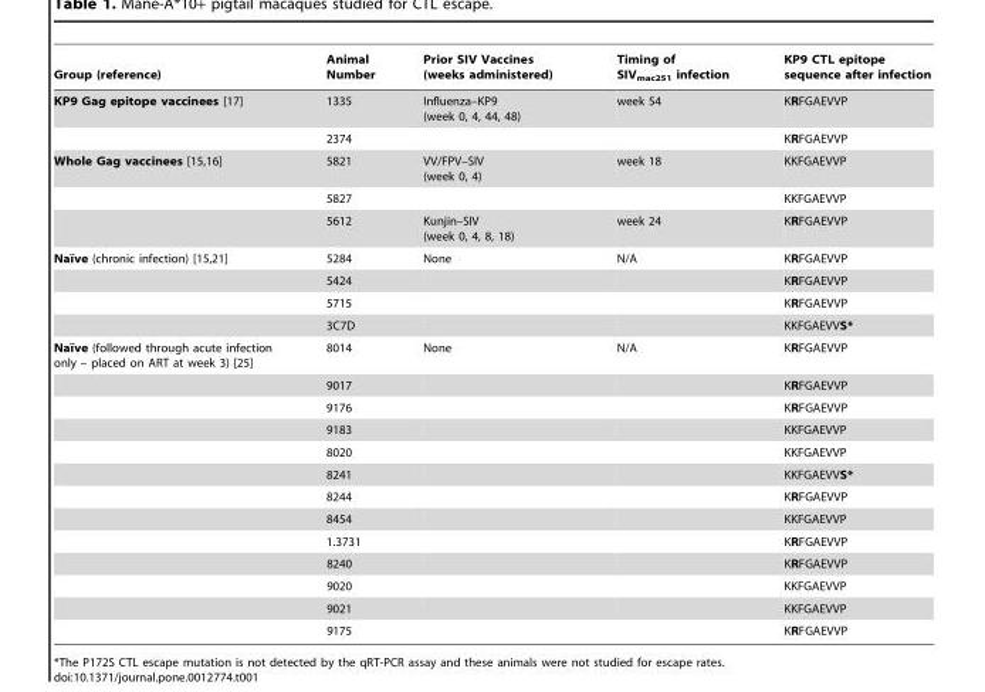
<table><thead><tr><td>Group (reference)</td><td>Animal Number</td><td>Prior SIV Vaccines (weeks administered)</td><td>Timing of SIV<sub>mac251</sub> infection</td><td>KP9 CTL epitope sequence after infection</td></tr></thead><tbody><tr><td rowspan="2">KP9 Gag epitope vaccinees [17]</td><td>1335</td><td>Influenza–KP9 (week 0, 4, 44, 48)</td><td>week 54</td><td>KRFGAEVVP</td></tr><tr><td>2374</td><td></td><td></td><td>KRFGAEVVP</td></tr><tr><td rowspan="3">Whole Gag vaccinees [15,16]</td><td>5821</td><td>VV/FPV–SIV (week 0, 4)</td><td>week 18</td><td>KKFGAEVVP</td></tr><tr><td>5827</td><td></td><td></td><td>KKFGAEVVP</td></tr><tr><td>5612</td><td>Kunjin–SIV (week 0, 4, 8, 18)</td><td>week 24</td><td>KRFGAEVVP</td></tr><tr><td rowspan="4">Naı¨ve (chronic infection) [15,21]</td><td>5284</td><td>None</td><td>N/A</td><td>KRFGAEVVP</td></tr><tr><td>5424</td><td></td><td></td><td>KRFGAEVVP</td></tr><tr><td>5715</td><td></td><td></td><td>KRFGAEVVP</td></tr><tr><td>3C7D</td><td></td><td></td><td>KKFGAEVVS*</td></tr><tr><td rowspan="13">Naı¨ve (followed through acute infection only – placed on ART at week 3) [25]</td><td>8014</td><td>None</td><td>N/A</td><td>KRFGAEVVP</td></tr><tr><td>9017</td><td></td><td></td><td>KRFGAEVVP</td></tr><tr><td>9176</td><td></td><td></td><td>KRFGAEVVP</td></tr><tr><td>9183</td><td></td><td></td><td>KKFGAEVVP</td></tr><tr><td>8020</td><td></td><td></td><td>KKFGAEVVP</td></tr><tr><td>8241</td><td></td><td></td><td>KKFGAEVVS*</td></tr><tr><td>8244</td><td></td><td></td><td>KRFGAEVVP</td></tr><tr><td>8454</td><td></td><td></td><td>KKFGAEVVP</td></tr><tr><td>1.3731</td><td></td><td></td><td>KRFGAEVVP</td></tr><tr><td>8240</td><td></td><td></td><td>KRFGAEVVP</td></tr><tr><td>9020</td><td></td><td></td><td>KKFGAEVVP</td></tr><tr><td>9021</td><td></td><td></td><td>KKFGAEVVP</td></tr><tr><td>9175</td><td></td><td></td><td>KRFGAEVVP</td></tr></tbody></table>